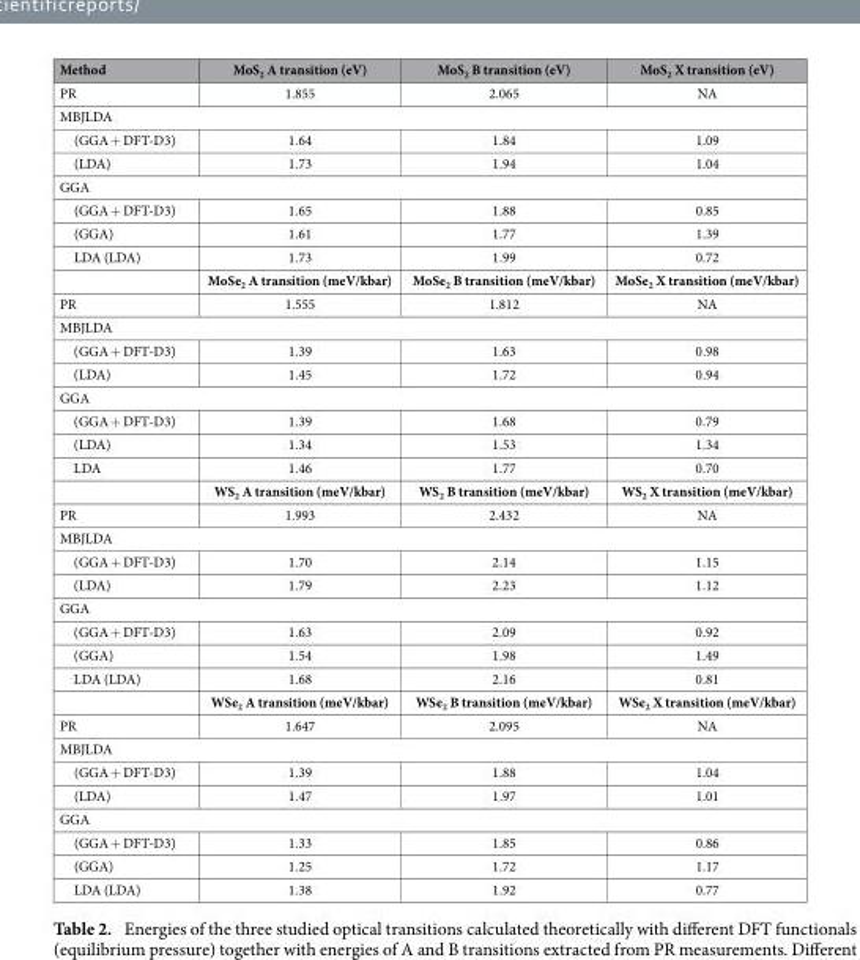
<table><thead><tr><td>Method</td><td>MoS<sub>2</sub> A transition (eV)</td><td>MoS<sub>2</sub> B transition (eV)</td><td>MoS<sub>2</sub> X transition (eV)</td></tr></thead><tbody><tr><td>PR</td><td>1.855</td><td>2.065</td><td>NA</td></tr><tr><td colspan="4">MBJLDA</td></tr><tr><td>(GGA + DFT-D3)</td><td>1.64</td><td>1.84</td><td>1.09</td></tr><tr><td>(LDA)</td><td>1.73</td><td>1.94</td><td>1.04</td></tr><tr><td colspan="4">GGA</td></tr><tr><td>(GGA + DFT-D3)</td><td>1.65</td><td>1.88</td><td>0.85</td></tr><tr><td>(GGA)</td><td>1.61</td><td>1.77</td><td>1.39</td></tr><tr><td rowspan="2">LDA (LDA)</td><td>1.73</td><td>1.99</td><td>0.72</td></tr><tr><td>MoSe2 A transition (meV/kbar)</td><td>MoSe<sub>2</sub> B transition (meV/kbar)</td><td>MoSe2 X transition (meV/kbar)</td></tr><tr><td>PR</td><td>1.555</td><td>1.812</td><td>NA</td></tr><tr><td colspan="4">MBJLDA</td></tr><tr><td>(GGA + DFT-D3)</td><td>1.39</td><td>1.63</td><td>0.98</td></tr><tr><td>(LDA)</td><td>1.45</td><td>1.72</td><td>0.94</td></tr><tr><td colspan="4">GGA</td></tr><tr><td>(GGA + DFT-D3)</td><td>1.39</td><td>1.68</td><td>0.79</td></tr><tr><td>(LDA)</td><td>1.34</td><td>1.53</td><td>1.34</td></tr><tr><td rowspan="2">LDA</td><td>1.46</td><td>1.77</td><td>0.70</td></tr><tr><td>WS2 A transition (meV/kbar)</td><td>WS<sub>2</sub> B transition (meV/kbar)</td><td>WS2 X transition (meV/kbar)</td></tr><tr><td>PR</td><td>1.993</td><td>2.432</td><td>NA</td></tr><tr><td colspan="4">MBJLDA</td></tr><tr><td>(GGA + DFT-D3)</td><td>1.70</td><td>2.14</td><td>1.15</td></tr><tr><td>(LDA)</td><td>1.79</td><td>2.23</td><td>1.12</td></tr><tr><td colspan="4">GGA</td></tr><tr><td>(GGA + DFT-D3)</td><td>1.63</td><td>2.09</td><td>0.92</td></tr><tr><td>(GGA)</td><td>1.54</td><td>1.98</td><td>1.49</td></tr><tr><td rowspan="2">LDA (LDA)</td><td>1.68</td><td>2.16</td><td>0.81</td></tr><tr><td>WSe2 A transition (meV/kbar)</td><td>WSe<sub>2</sub> B transition (meV/kbar)</td><td>WSe2 X transition (meV/kbar)</td></tr><tr><td>PR</td><td>1.647</td><td>2.095</td><td>NA</td></tr><tr><td colspan="4">MBJLDA</td></tr><tr><td>(GGA + DFT-D3)</td><td>1.39</td><td>1.88</td><td>1.04</td></tr><tr><td>(LDA)</td><td>1.47</td><td>1.97</td><td>1.01</td></tr><tr><td colspan="4">GGA</td></tr><tr><td>(GGA + DFT-D3)</td><td>1.33</td><td>1.85</td><td>0.86</td></tr><tr><td>(GGA)</td><td>1.25</td><td>1.72</td><td>1.17</td></tr><tr><td>LDA (LDA)</td><td>1.38</td><td>1.92</td><td>0.77</td></tr></tbody></table>